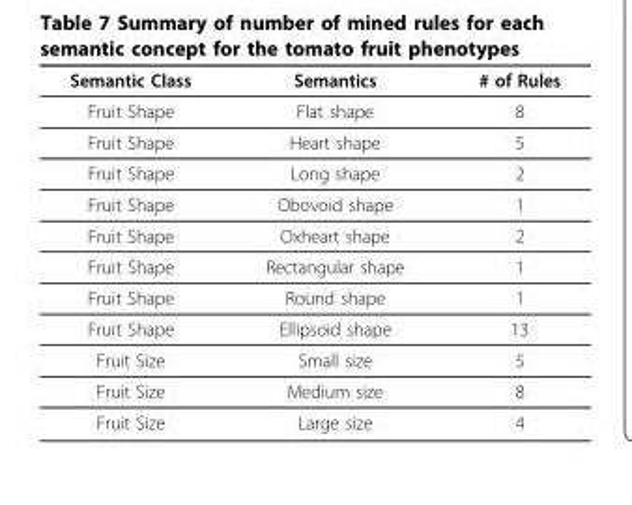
<table><thead><tr><td>Semantic Class</td><td>Semantics</td><td># of Rules</td></tr></thead><tbody><tr><td>Fruit Shape</td><td>Flat shape</td><td>8</td></tr><tr><td>Fruit Shape</td><td>Heart shape</td><td>5</td></tr><tr><td>Fruit Shape</td><td>Long shape</td><td>2</td></tr><tr><td>Fruit Shape</td><td>Obovoid shape</td><td>1</td></tr><tr><td>Fruit Shape</td><td>Oxheart shape</td><td>2</td></tr><tr><td>Fruit Shape</td><td>Rectangular shape</td><td>1</td></tr><tr><td>Fruit Shape</td><td>Round shape</td><td>1</td></tr><tr><td>Fruit Shape</td><td>Ellipsoid shape</td><td>13</td></tr><tr><td>Fruit Size</td><td>Small size</td><td>5</td></tr><tr><td>Fruit Size</td><td>Medium size</td><td>8</td></tr><tr><td>Fruit Size</td><td>Large size</td><td>4</td></tr></tbody></table>